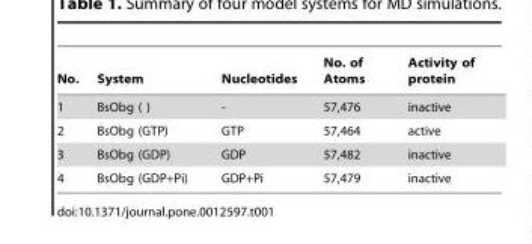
<table><thead><tr><td>No.</td><td>System</td><td>Nucleotides</td><td>No. of Atoms</td><td>Activity of protein</td></tr></thead><tbody><tr><td>1</td><td>BsObg ( )</td><td>-</td><td>57,476</td><td>inactive</td></tr><tr><td>2</td><td>BsObg (GTP)</td><td>GTP</td><td>57,464</td><td>active</td></tr><tr><td>3</td><td>BsObg (GDP)</td><td>GDP</td><td>57,482</td><td>inactive</td></tr><tr><td>4</td><td>BsObg (GDP+Pi)</td><td>GDP+Pi</td><td>57,479</td><td>inactive</td></tr></tbody></table>